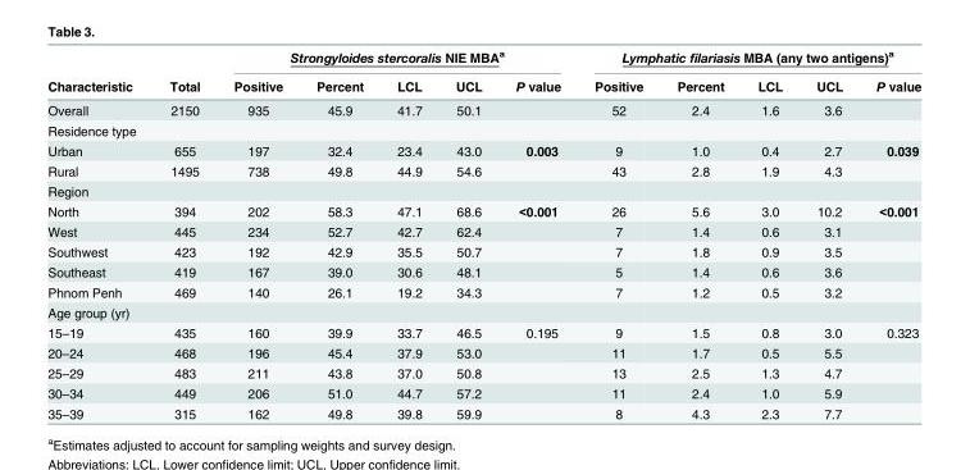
<table><thead><tr><td rowspan="2">Characteristic</td><td rowspan="2">Total</td><td colspan="5">Strongyloides stercoralis NIE MBA<sup>a</sup></td><td colspan="5">Lymphatic filariasis MBA (any two antigens)<sup>a</sup></td></tr><tr><td>Positive</td><td>Percent</td><td>LCL</td><td>UCL</td><td>P value</td><td>Positive</td><td>Percent</td><td>LCL</td><td>UCL</td><td>P value</td></tr></thead><tbody><tr><td>Overall</td><td>2150</td><td>935</td><td>45.9</td><td>41.7</td><td>50.1</td><td></td><td>52</td><td>2.4</td><td>1.6</td><td>3.6</td><td></td></tr><tr><td colspan="12">Residence type</td></tr><tr><td>Urban</td><td>655</td><td>197</td><td>32.4</td><td>23.4</td><td>43.0</td><td>0.003</td><td>9</td><td>1.0</td><td>0.4</td><td>2.7</td><td>0.039</td></tr><tr><td>Rural</td><td>1495</td><td>738</td><td>49.8</td><td>44.9</td><td>54.6</td><td></td><td>43</td><td>2.8</td><td>1.9</td><td>4.3</td><td></td></tr><tr><td colspan="12">Region</td></tr><tr><td>North</td><td>394</td><td>202</td><td>58.3</td><td>47.1</td><td>68.6</td><td>&lt;0.001</td><td>26</td><td>5.6</td><td>3.0</td><td>10.2</td><td>&lt;0.001</td></tr><tr><td>West</td><td>445</td><td>234</td><td>52.7</td><td>42.7</td><td>62.4</td><td></td><td>7</td><td>1.4</td><td>0.6</td><td>3.1</td><td></td></tr><tr><td>Southwest</td><td>423</td><td>192</td><td>42.9</td><td>35.5</td><td>50.7</td><td></td><td>7</td><td>1.8</td><td>0.9</td><td>3.5</td><td></td></tr><tr><td>Southeast</td><td>419</td><td>167</td><td>39.0</td><td>30.6</td><td>48.1</td><td></td><td>5</td><td>1.4</td><td>0.6</td><td>3.6</td><td></td></tr><tr><td>Phnom Penh</td><td>469</td><td>140</td><td>26.1</td><td>19.2</td><td>34.3</td><td></td><td>7</td><td>1.2</td><td>0.5</td><td>3.2</td><td></td></tr><tr><td colspan="12">Age group (yr)</td></tr><tr><td>15–19</td><td>435</td><td>160</td><td>39.9</td><td>33.7</td><td>46.5</td><td>0.195</td><td>9</td><td>1.5</td><td>0.8</td><td>3.0</td><td>0.323</td></tr><tr><td>20–24</td><td>468</td><td>196</td><td>45.4</td><td>37.9</td><td>53.0</td><td></td><td>11</td><td>1.7</td><td>0.5</td><td>5.5</td><td></td></tr><tr><td>25–29</td><td>483</td><td>211</td><td>43.8</td><td>37.0</td><td>50.8</td><td></td><td>13</td><td>2.5</td><td>1.3</td><td>4.7</td><td></td></tr><tr><td>30–34</td><td>449</td><td>206</td><td>51.0</td><td>44.7</td><td>57.2</td><td></td><td>11</td><td>2.4</td><td>1.0</td><td>5.9</td><td></td></tr><tr><td>35–39</td><td>315</td><td>162</td><td>49.8</td><td>39.8</td><td>59.9</td><td></td><td>8</td><td>4.3</td><td>2.3</td><td>7.7</td><td></td></tr></tbody></table>